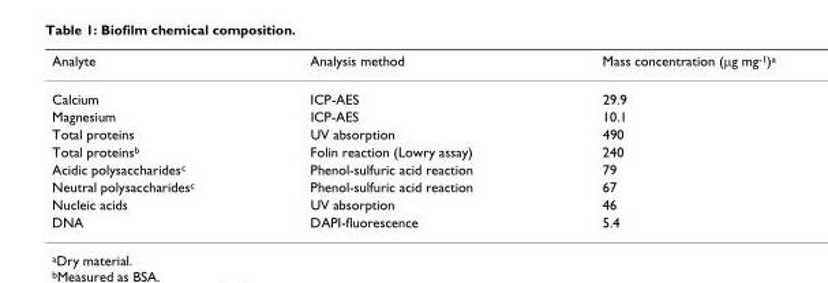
<table><thead><tr><td>Analyte</td><td>Analysis method</td><td>Mass concentration (μg mg<sup>-1</sup>)<sup>a</sup></td></tr></thead><tbody><tr><td>Calcium</td><td>ICP-AES</td><td>29.9</td></tr><tr><td>Magnesium</td><td>ICP-AES</td><td>10.1</td></tr><tr><td>Total proteins</td><td>UV absorption</td><td>490</td></tr><tr><td>Total proteins<sup>b</sup></td><td>Folin reaction (Lowry assay)</td><td>240</td></tr><tr><td>Acidic polysaccharides<sup>c</sup></td><td>Phenol-sulfuric acid reaction</td><td>79</td></tr><tr><td>Neutral polysaccharides<sup>c</sup></td><td>Phenol-sulfuric acid reaction</td><td>67</td></tr><tr><td>Nucleic acids</td><td>UV absorption</td><td>46</td></tr><tr><td>DNA</td><td>DAPI-fluorescence</td><td>5.4</td></tr></tbody></table>